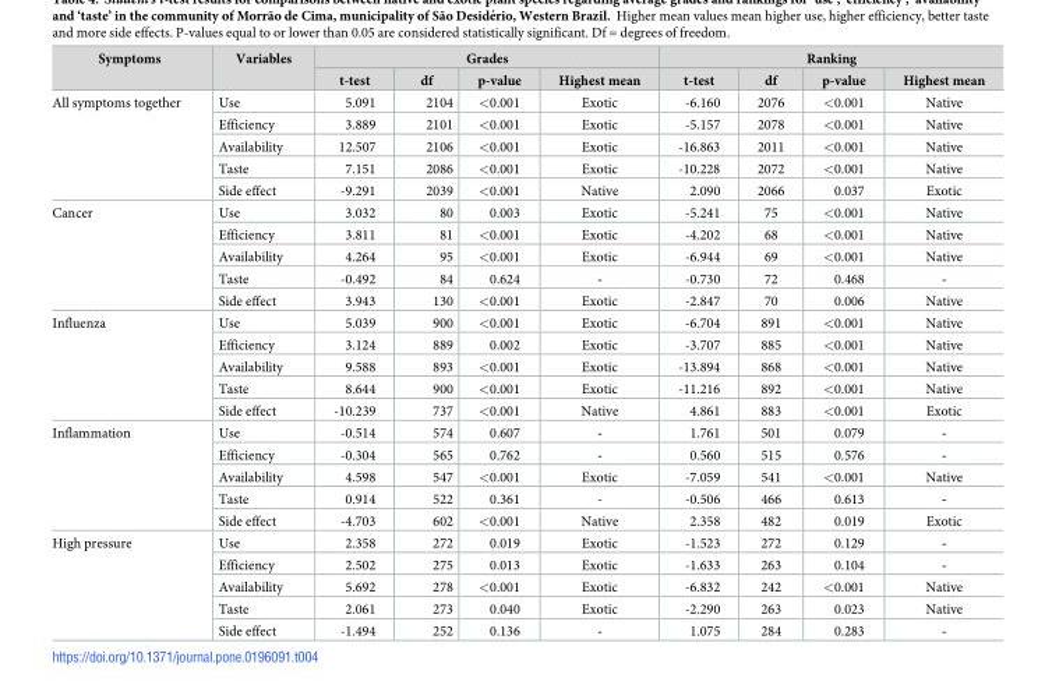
<table><thead><tr><td rowspan="2">Symptoms</td><td rowspan="2">Variables</td><td colspan="4">Grades</td><td colspan="4">Ranking</td></tr><tr><td>t-test</td><td>df</td><td>p-value</td><td>Highest mean</td><td>t-test</td><td>df</td><td>p-value</td><td>Highest mean</td></tr></thead><tbody><tr><td rowspan="5">All symptoms together</td><td>Use</td><td>5.091</td><td>2104</td><td>&lt;0.001</td><td>Exotic</td><td>-6.160</td><td>2076</td><td>&lt;0.001</td><td>Native</td></tr><tr><td>Efficiency</td><td>3.889</td><td>2101</td><td>&lt;0.001</td><td>Exotic</td><td>-5.157</td><td>2078</td><td>&lt;0.001</td><td>Native</td></tr><tr><td>Availability</td><td>12.507</td><td>2106</td><td>&lt;0.001</td><td>Exotic</td><td>-16.863</td><td>2011</td><td>&lt;0.001</td><td>Native</td></tr><tr><td>Taste</td><td>7.151</td><td>2086</td><td>&lt;0.001</td><td>Exotic</td><td>-10.228</td><td>2072</td><td>&lt;0.001</td><td>Native</td></tr><tr><td>Side effect</td><td>-9.291</td><td>2039</td><td>&lt;0.001</td><td>Native</td><td>2.090</td><td>2066</td><td>0.037</td><td>Exotic</td></tr><tr><td rowspan="5">Cancer</td><td>Use</td><td>3.032</td><td>80</td><td>0.003</td><td>Exotic</td><td>-5.241</td><td>75</td><td>&lt;0.001</td><td>Native</td></tr><tr><td>Efficiency</td><td>3.811</td><td>81</td><td>&lt;0.001</td><td>Exotic</td><td>-4.202</td><td>68</td><td>&lt;0.001</td><td>Native</td></tr><tr><td>Availability</td><td>4.264</td><td>95</td><td>&lt;0.001</td><td>Exotic</td><td>-6.944</td><td>69</td><td>&lt;0.001</td><td>Native</td></tr><tr><td>Taste</td><td>-0.492</td><td>84</td><td>0.624</td><td>-</td><td>-0.730</td><td>72</td><td>0.468</td><td>-</td></tr><tr><td>Side effect</td><td>3.943</td><td>130</td><td>&lt;0.001</td><td>Exotic</td><td>-2.847</td><td>70</td><td>0.006</td><td>Native</td></tr><tr><td rowspan="5">Influenza</td><td>Use</td><td>5.039</td><td>900</td><td>&lt;0.001</td><td>Exotic</td><td>-6.704</td><td>891</td><td>&lt;0.001</td><td>Native</td></tr><tr><td>Efficiency</td><td>3.124</td><td>889</td><td>0.002</td><td>Exotic</td><td>-3.707</td><td>885</td><td>&lt;0.001</td><td>Native</td></tr><tr><td>Availability</td><td>9.588</td><td>893</td><td>&lt;0.001</td><td>Exotic</td><td>-13.894</td><td>868</td><td>&lt;0.001</td><td>Native</td></tr><tr><td>Taste</td><td>8.644</td><td>900</td><td>&lt;0.001</td><td>Exotic</td><td>-11.216</td><td>892</td><td>&lt;0.001</td><td>Native</td></tr><tr><td>Side effect</td><td>-10.239</td><td>737</td><td>&lt;0.001</td><td>Native</td><td>4.861</td><td>883</td><td>&lt;0.001</td><td>Exotic</td></tr><tr><td rowspan="5">Inflammation</td><td>Use</td><td>-0.514</td><td>574</td><td>0.607</td><td>-</td><td>1.761</td><td>501</td><td>0.079</td><td>-</td></tr><tr><td>Efficiency</td><td>-0.304</td><td>565</td><td>0.762</td><td>-</td><td>0.560</td><td>515</td><td>0.576</td><td>-</td></tr><tr><td>Availability</td><td>4.598</td><td>547</td><td>&lt;0.001</td><td>Exotic</td><td>-7.059</td><td>541</td><td>&lt;0.001</td><td>Native</td></tr><tr><td>Taste</td><td>0.914</td><td>522</td><td>0.361</td><td>-</td><td>-0.506</td><td>466</td><td>0.613</td><td>-</td></tr><tr><td>Side effect</td><td>-4.703</td><td>602</td><td>&lt;0.001</td><td>Native</td><td>2.358</td><td>482</td><td>0.019</td><td>Exotic</td></tr><tr><td rowspan="5">High pressure</td><td>Use</td><td>2.358</td><td>272</td><td>0.019</td><td>Exotic</td><td>-1.523</td><td>272</td><td>0.129</td><td>-</td></tr><tr><td>Efficiency</td><td>2.502</td><td>275</td><td>0.013</td><td>Exotic</td><td>-1.633</td><td>263</td><td>0.104</td><td>-</td></tr><tr><td>Availability</td><td>5.692</td><td>278</td><td>&lt;0.001</td><td>Exotic</td><td>-6.832</td><td>242</td><td>&lt;0.001</td><td>Native</td></tr><tr><td>Taste</td><td>2.061</td><td>273</td><td>0.040</td><td>Exotic</td><td>-2.290</td><td>263</td><td>0.023</td><td>Native</td></tr><tr><td>Side effect</td><td>-1.494</td><td>252</td><td>0.136</td><td>-</td><td>1.075</td><td>284</td><td>0.283</td><td>-</td></tr></tbody></table>